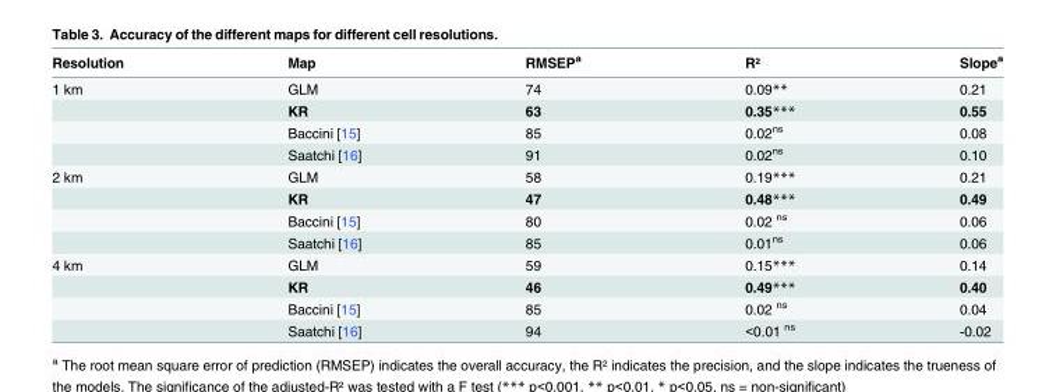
<table><thead><tr><td>Resolution</td><td>Map</td><td>RMSEP<sup>a</sup></td><td>R²</td><td>Slope<sup>a</sup></td></tr></thead><tbody><tr><td rowspan="4">1 km</td><td>GLM</td><td>74</td><td>0.09**</td><td>0.21</td></tr><tr><td>KR</td><td>63</td><td>0.35***</td><td>0.55</td></tr><tr><td>Baccini [15]</td><td>85</td><td>0.02<sup>ns</sup></td><td>0.08</td></tr><tr><td>Saatchi [16]</td><td>91</td><td>0.02<sup>ns</sup></td><td>0.10</td></tr><tr><td rowspan="4">2 km</td><td>GLM</td><td>58</td><td>0.19***</td><td>0.21</td></tr><tr><td>KR</td><td>47</td><td>0.48***</td><td>0.49</td></tr><tr><td>Baccini [15]</td><td>80</td><td>0.02 <sup>ns</sup></td><td>0.06</td></tr><tr><td>Saatchi [16]</td><td>85</td><td>0.01<sup>ns</sup></td><td>0.06</td></tr><tr><td rowspan="4">4 km</td><td>GLM</td><td>59</td><td>0.15***</td><td>0.14</td></tr><tr><td>KR</td><td>46</td><td>0.49***</td><td>0.40</td></tr><tr><td>Baccini [15]</td><td>85</td><td>0.02 <sup>ns</sup></td><td>0.04</td></tr><tr><td>Saatchi [16]</td><td>94</td><td>&lt;0.01 <sup>ns</sup></td><td>-0.02</td></tr></tbody></table>